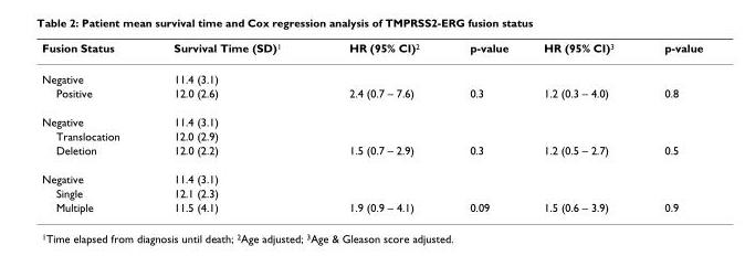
<table><thead><tr><td>Fusion Status</td><td>Survival Time (SD)<sup>1</sup></td><td>HR (95% CI)<sup>2</sup></td><td>p-value</td><td>HR (95% CI)<sup>3</sup></td><td>p-value</td></tr></thead><tbody><tr><td>Negative</td><td>11.4 (3.1)</td><td></td><td></td><td></td><td></td></tr><tr><td>Positive</td><td>12.0 (2.6)</td><td>2.4 (0.7 – 7.6)</td><td>0.3</td><td>1.2 (0.3 – 4.0)</td><td>0.8</td></tr><tr><td>Negative</td><td>11.4 (3.1)</td><td></td><td></td><td></td><td></td></tr><tr><td>Translocation</td><td>12.0 (2.9)</td><td></td><td></td><td></td><td></td></tr><tr><td>Deletion</td><td>12.0 (2.2)</td><td>1.5 (0.7 – 2.9)</td><td>0.3</td><td>1.2 (0.5 – 2.7)</td><td>0.5</td></tr><tr><td>Negative</td><td>11.4 (3.1)</td><td></td><td></td><td></td><td></td></tr><tr><td>Single</td><td>12.1 (2.3)</td><td></td><td></td><td></td><td></td></tr><tr><td>Multiple</td><td>11.5 (4.1)</td><td>1.9 (0.9 – 4.1)</td><td>0.09</td><td>1.5 (0.6 – 3.9)</td><td>0.9</td></tr></tbody></table>